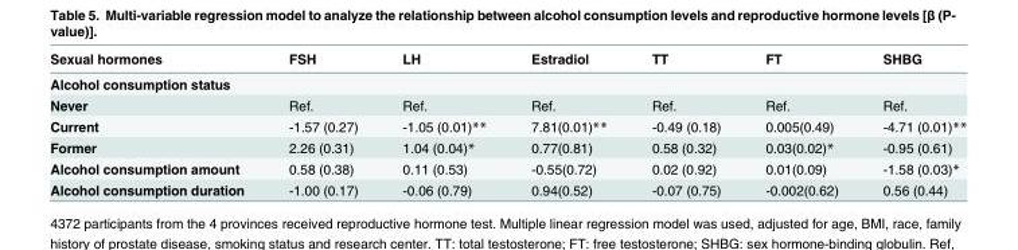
<table><thead><tr><td>Sexual hormones</td><td>FSH</td><td>LH</td><td>Estradiol</td><td>TT</td><td>FT</td><td>SHBG</td></tr></thead><tbody><tr><td colspan="7">Alcohol consumption status</td></tr><tr><td>Never</td><td>Ref.</td><td>Ref.</td><td>Ref.</td><td>Ref.</td><td>Ref.</td><td>Ref.</td></tr><tr><td>Current</td><td>-1.57 (0.27)</td><td>-1.05 (0.01)**</td><td>7.81(0.01)**</td><td>-0.49 (0.18)</td><td>0.005(0.49)</td><td>-4.71 (0.01)**</td></tr><tr><td>Former</td><td>2.26 (0.31)</td><td>1.04 (0.04)*</td><td>0.77(0.81)</td><td>0.58 (0.32)</td><td>0.03(0.02)*</td><td>-0.95 (0.61)</td></tr><tr><td>Alcohol consumption amount</td><td>0.58 (0.38)</td><td>0.11 (0.53)</td><td>-0.55(0.72)</td><td>0.02 (0.92)</td><td>0.01(0.09)</td><td>-1.58 (0.03)*</td></tr><tr><td>Alcohol consumption duration</td><td>-1.00 (0.17)</td><td>-0.06 (0.79)</td><td>0.94(0.52)</td><td>-0.07 (0.75)</td><td>-0.002(0.62)</td><td>0.56 (0.44)</td></tr></tbody></table>